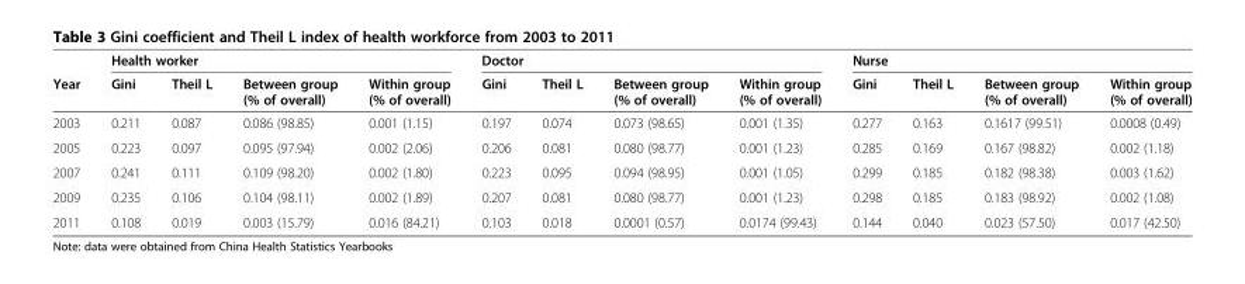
<table><thead><tr><td rowspan="2">Year</td><td colspan="4">Health worker</td><td colspan="4">Doctor</td><td colspan="4">Nurse</td></tr><tr><td>Gini</td><td>Theil L</td><td>Between group (% of overall)</td><td>Within group (% of overall)</td><td>Gini</td><td>Theil L</td><td>Between group (% of overall)</td><td>Within group (% of overall)</td><td>Gini</td><td>Theil L</td><td>Between group (% of overall)</td><td>Within group (% of overall)</td></tr></thead><tbody><tr><td>2003</td><td>0.211</td><td>0.087</td><td>0.086 (98.85)</td><td>0.001 (1.15)</td><td>0.197</td><td>0.074</td><td>0.073 (98.65)</td><td>0.001 (1.35)</td><td>0.277</td><td>0.163</td><td>0.1617 (99.51)</td><td>0.0008 (0.49)</td></tr><tr><td>2005</td><td>0.223</td><td>0.097</td><td>0.095 (97.94)</td><td>0.002 (2.06)</td><td>0.206</td><td>0.081</td><td>0.080 (98.77)</td><td>0.001 (1.23)</td><td>0.285</td><td>0.169</td><td>0.167 (98.82)</td><td>0.002 (1.18)</td></tr><tr><td>2007</td><td>0.241</td><td>0.111</td><td>0.109 (98.20)</td><td>0.002 (1.80)</td><td>0.223</td><td>0.095</td><td>0.094 (98.95)</td><td>0.001 (1.05)</td><td>0.299</td><td>0.185</td><td>0.182 (98.38)</td><td>0.003 (1.62)</td></tr><tr><td>2009</td><td>0.235</td><td>0.106</td><td>0.104 (98.11)</td><td>0.002 (1.89)</td><td>0.207</td><td>0.081</td><td>0.080 (98.77)</td><td>0.001 (1.23)</td><td>0.298</td><td>0.185</td><td>0.183 (98.92)</td><td>0.002 (1.08)</td></tr><tr><td>2011</td><td>0.108</td><td>0.019</td><td>0.003 (15.79)</td><td>0.016 (84.21)</td><td>0.103</td><td>0.018</td><td>0.0001 (0.57)</td><td>0.0174 (99.43)</td><td>0.144</td><td>0.040</td><td>0.023 (57.50)</td><td>0.017 (42.50)</td></tr></tbody></table>